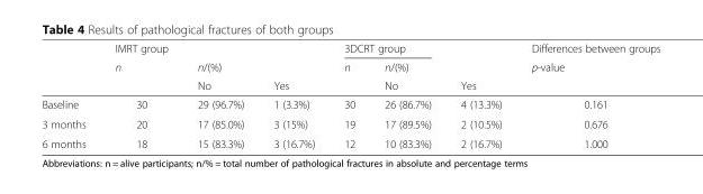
<table><thead><tr><td rowspan="3"></td><td rowspan="3">IMRT group n</td><td rowspan="3">n/(%) No</td><td rowspan="3">Yes</td><td colspan="2">3DCRT group</td><td rowspan="3">Yes</td><td rowspan="3">Differences between groups p-value</td></tr><tr><td rowspan="2">n</td><td rowspan="2">n/(%) No</td></tr><tr></tr></thead><tbody><tr><td>Baseline</td><td>30</td><td>29 (96.7%)</td><td>1 (3.3%)</td><td>30</td><td>26 (86.7%)</td><td>4 (13.3%)</td><td>0.161</td></tr><tr><td>3 months</td><td>20</td><td>17 (85.0%)</td><td>3 (15%)</td><td>19</td><td>17 (89.5%)</td><td>2 (10.5%)</td><td>0.676</td></tr><tr><td>6 months</td><td>18</td><td>15 (83.3%)</td><td>3 (16.7%)</td><td>12</td><td>10 (83.3%)</td><td>2 (16.7%)</td><td>1.000</td></tr></tbody></table>